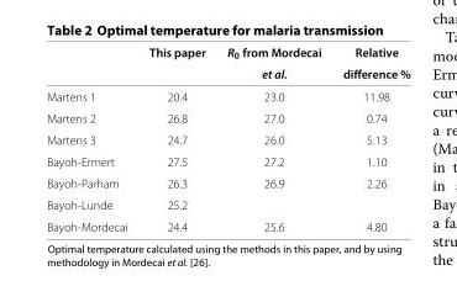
<table><thead><tr><td rowspan="2"></td><td rowspan="2">This paper</td><td rowspan="2">R<sub>0</sub> from Mordecai et al.</td><td rowspan="2">Relative difference %</td></tr><tr></tr></thead><tbody><tr><td>Martens 1</td><td>20.4</td><td>23.0</td><td>11.98</td></tr><tr><td>Martens 2</td><td>26.8</td><td>27.0</td><td>0.74</td></tr><tr><td>Martens 3</td><td>24.7</td><td>26.0</td><td>5.13</td></tr><tr><td>Bayoh-Ermert</td><td>27.5</td><td>27.2</td><td>1.10</td></tr><tr><td>Bayoh-Parham</td><td>26.3</td><td>26.9</td><td>2.26</td></tr><tr><td>Bayoh-Lunde</td><td>25.2</td><td></td><td></td></tr><tr><td>Bayoh-Mordecai</td><td>24.4</td><td>25.6</td><td>4.80</td></tr></tbody></table>